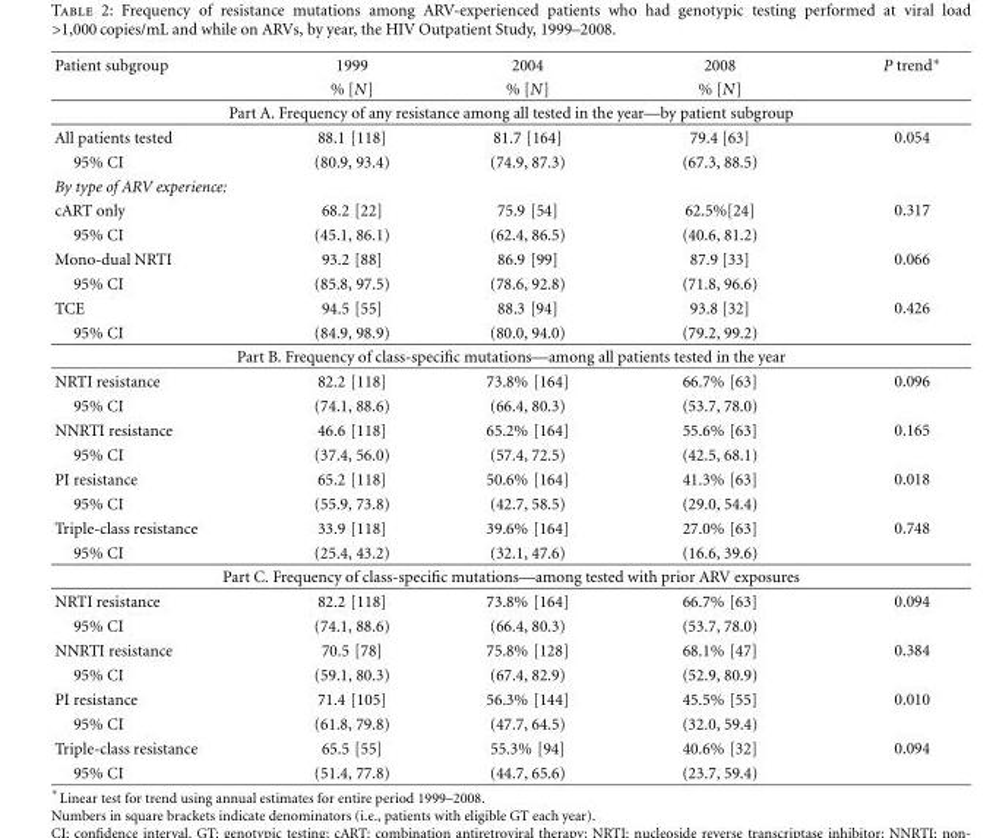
<table><thead><tr><td rowspan="2">Patient subgroup</td><td rowspan="2">1999 % [N]</td><td rowspan="2">2004 % [N]</td><td rowspan="2">2008 % [N]</td><td rowspan="2">P trend∗</td></tr><tr></tr></thead><tbody><tr><td colspan="5">Part A. Frequency of any resistance among all tested in the year—by patient subgroup</td></tr><tr><td>All patients tested</td><td>88.1 [118]</td><td>81.7 [164]</td><td>79.4 [63]</td><td>0.054</td></tr><tr><td>95% CI</td><td>(80.9, 93.4)</td><td>(74.9, 87.3)</td><td>(67.3, 88.5)</td><td></td></tr><tr><td colspan="5">By type of ARV experience:</td></tr><tr><td>cART only</td><td>68.2 [22]</td><td>75.9 [54]</td><td>62.5%[24]</td><td>0.317</td></tr><tr><td>95% CI</td><td>(45.1, 86.1)</td><td>(62.4, 86.5)</td><td>(40.6, 81.2)</td><td></td></tr><tr><td>Mono-dual NRTI</td><td>93.2 [88]</td><td>86.9 [99]</td><td>87.9 [33]</td><td>0.066</td></tr><tr><td>95% CI</td><td>(85.8, 97.5)</td><td>(78.6, 92.8)</td><td>(71.8, 96.6)</td><td></td></tr><tr><td>TCE</td><td>94.5 [55]</td><td>88.3 [94]</td><td>93.8 [32]</td><td>0.426</td></tr><tr><td>95% CI</td><td>(84.9, 98.9)</td><td>(80.0, 94.0)</td><td>(79.2, 99.2)</td><td></td></tr><tr><td colspan="5">Part B. Frequency of class-specific mutations—among all patients tested in the year</td></tr><tr><td>NRTI resistance</td><td>82.2 [118]</td><td>73.8% [164]</td><td>66.7% [63]</td><td>0.096</td></tr><tr><td>95% CI</td><td>(74.1, 88.6)</td><td>(66.4, 80.3)</td><td>(53.7, 78.0)</td><td></td></tr><tr><td>NNRTI resistance</td><td>46.6 [118]</td><td>65.2% [164]</td><td>55.6% [63]</td><td>0.165</td></tr><tr><td>95% CI</td><td>(37.4, 56.0)</td><td>(57.4, 72.5)</td><td>(42.5, 68.1)</td><td></td></tr><tr><td>PI resistance</td><td>65.2 [118]</td><td>50.6% [164]</td><td>41.3% [63]</td><td>0.018</td></tr><tr><td>95% CI</td><td>(55.9, 73.8)</td><td>(42.7, 58.5)</td><td>(29.0, 54.4)</td><td></td></tr><tr><td>Triple-class resistance</td><td>33.9 [118]</td><td>39.6% [164]</td><td>27.0% [63]</td><td>0.748</td></tr><tr><td>95% CI</td><td>(25.4, 43.2)</td><td>(32.1, 47.6)</td><td>(16.6, 39.6)</td><td></td></tr><tr><td colspan="5">Part C. Frequency of class-specific mutations—among tested with prior ARV exposures</td></tr><tr><td>NRTI resistance</td><td>82.2 [118]</td><td>73.8% [164]</td><td>66.7% [63]</td><td>0.094</td></tr><tr><td>95% CI</td><td>(74.1, 88.6)</td><td>(66.4, 80.3)</td><td>(53.7, 78.0)</td><td></td></tr><tr><td>NNRTI resistance</td><td>70.5 [78]</td><td>75.8% [128]</td><td>68.1% [47]</td><td>0.384</td></tr><tr><td>95% CI</td><td>(59.1, 80.3)</td><td>(67.4, 82.9)</td><td>(52.9, 80.9)</td><td></td></tr><tr><td>PI resistance</td><td>71.4 [105]</td><td>56.3% [144]</td><td>45.5% [55]</td><td>0.010</td></tr><tr><td>95% CI</td><td>(61.8, 79.8)</td><td>(47.7, 64.5)</td><td>(32.0, 59.4)</td><td></td></tr><tr><td>Triple-class resistance</td><td>65.5 [55]</td><td>55.3% [94]</td><td>40.6% [32]</td><td>0.094</td></tr><tr><td>95% CI</td><td>(51.4, 77.8)</td><td>(44.7, 65.6)</td><td>(23.7, 59.4)</td><td></td></tr></tbody></table>